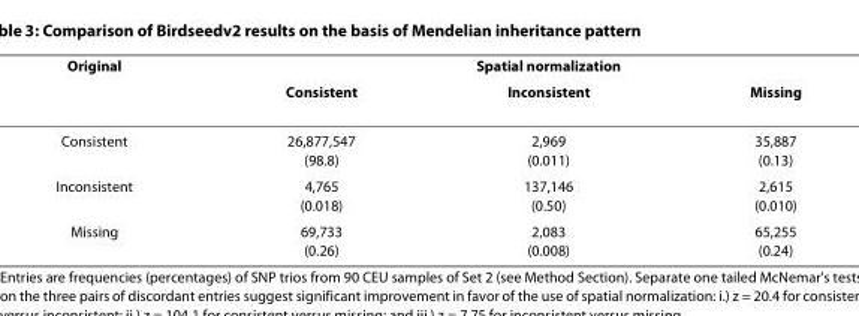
<table><thead><tr><td rowspan="2">Original</td><td colspan="3">Spatial normalization</td></tr><tr><td>Consistent</td><td>Inconsistent</td><td>Missing</td></tr></thead><tbody><tr><td>Consistent</td><td>26,877,547 (98.8)</td><td>2,969 (0.011)</td><td>35,887 (0.13)</td></tr><tr><td>Inconsistent</td><td>4,765 (0.018)</td><td>137,146 (0.50)</td><td>2,615 (0.010)</td></tr><tr><td>Missing</td><td>69,733 (0.26)</td><td>2,083 (0.008)</td><td>65,255 (0.24)</td></tr></tbody></table>